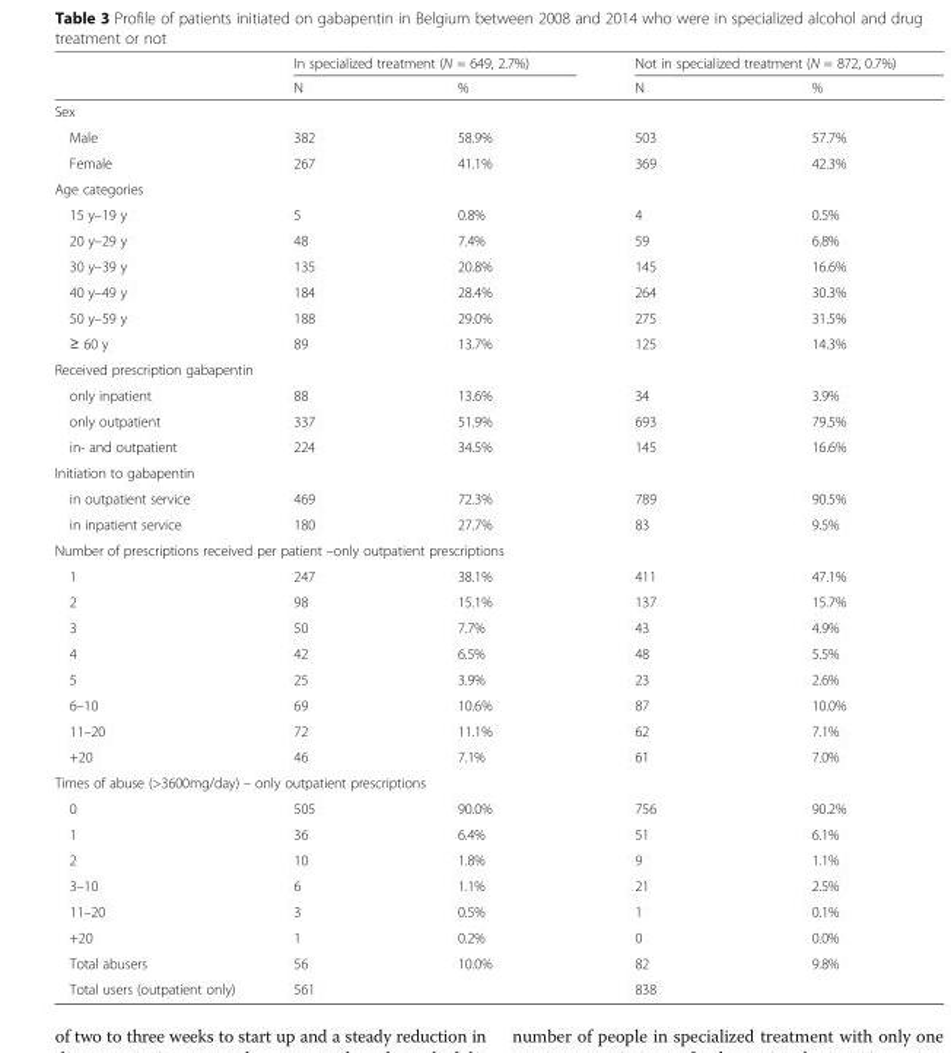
<table><thead><tr><td rowspan="2"></td><td colspan="2">In specialized treatment (N = 649, 2.7%)</td><td colspan="2">Not in specialized treatment (N = 872, 0.7%)</td></tr><tr><td>N</td><td>%</td><td>N</td><td>%</td></tr></thead><tbody><tr><td colspan="5">Sex</td></tr><tr><td>Male</td><td>382</td><td>58.9%</td><td>503</td><td>57.7%</td></tr><tr><td>Female</td><td>267</td><td>41.1%</td><td>369</td><td>42.3%</td></tr><tr><td colspan="5">Age categories</td></tr><tr><td>15 y–19 y</td><td>5</td><td>0.8%</td><td>4</td><td>0.5%</td></tr><tr><td>20 y–29 y</td><td>48</td><td>7.4%</td><td>59</td><td>6.8%</td></tr><tr><td>30 y–39 y</td><td>135</td><td>20.8%</td><td>145</td><td>16.6%</td></tr><tr><td>40 y–49 y</td><td>184</td><td>28.4%</td><td>264</td><td>30.3%</td></tr><tr><td>50 y–59 y</td><td>188</td><td>29.0%</td><td>275</td><td>31.5%</td></tr><tr><td>≥ 60 y</td><td>89</td><td>13.7%</td><td>125</td><td>14.3%</td></tr><tr><td colspan="5">Received prescription gabapentin</td></tr><tr><td>only inpatient</td><td>88</td><td>13.6%</td><td>34</td><td>3.9%</td></tr><tr><td>only outpatient</td><td>337</td><td>51.9%</td><td>693</td><td>79.5%</td></tr><tr><td>in- and outpatient</td><td>224</td><td>34.5%</td><td>145</td><td>16.6%</td></tr><tr><td colspan="5">Initiation to gabapentin</td></tr><tr><td>in outpatient service</td><td>469</td><td>72.3%</td><td>789</td><td>90.5%</td></tr><tr><td>in inpatient service</td><td>180</td><td>27.7%</td><td>83</td><td>9.5%</td></tr><tr><td colspan="5">Number of prescriptions received per patient –only outpatient prescriptions</td></tr><tr><td>1</td><td>247</td><td>38.1%</td><td>411</td><td>47.1%</td></tr><tr><td>2</td><td>98</td><td>15.1%</td><td>137</td><td>15.7%</td></tr><tr><td>3</td><td>50</td><td>7.7%</td><td>43</td><td>4.9%</td></tr><tr><td>4</td><td>42</td><td>6.5%</td><td>48</td><td>5.5%</td></tr><tr><td>5</td><td>25</td><td>3.9%</td><td>23</td><td>2.6%</td></tr><tr><td>6–10</td><td>69</td><td>10.6%</td><td>87</td><td>10.0%</td></tr><tr><td>11–20</td><td>72</td><td>11.1%</td><td>62</td><td>7.1%</td></tr><tr><td>+20</td><td>46</td><td>7.1%</td><td>61</td><td>7.0%</td></tr><tr><td colspan="5">Times of abuse (&gt;3600mg/day) – only outpatient prescriptions</td></tr><tr><td>0</td><td>505</td><td>90.0%</td><td>756</td><td>90.2%</td></tr><tr><td>1</td><td>36</td><td>6.4%</td><td>51</td><td>6.1%</td></tr><tr><td>2</td><td>10</td><td>1.8%</td><td>9</td><td>1.1%</td></tr><tr><td>3–10</td><td>6</td><td>1.1%</td><td>21</td><td>2.5%</td></tr><tr><td>11–20</td><td>3</td><td>0.5%</td><td>1</td><td>0.1%</td></tr><tr><td>+20</td><td>1</td><td>0.2%</td><td>0</td><td>0.0%</td></tr><tr><td>Total abusers</td><td>56</td><td>10.0%</td><td>82</td><td>9.8%</td></tr><tr><td>Total users (outpatient only)</td><td>561</td><td></td><td>838</td><td></td></tr></tbody></table>